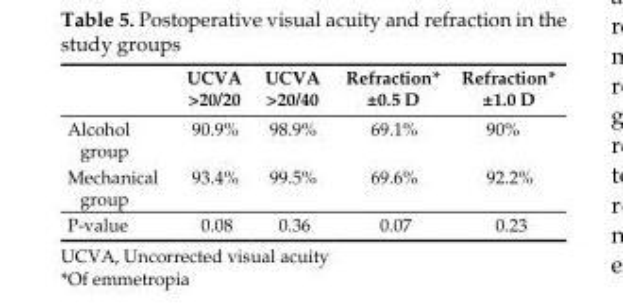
<table><thead><tr><td></td><td>uCvA &gt;20/20</td><td>uCvA &gt;20/40</td><td>Refraction* ±0.5 D</td><td>Refraction* ±1.0 D</td></tr></thead><tbody><tr><td>Alcohol group</td><td>90.9%</td><td>98.9%</td><td>69.1%</td><td>90%</td></tr><tr><td>Mechanical group</td><td>93.4%</td><td>99.5%</td><td>69.6%</td><td>92.2%</td></tr><tr><td>P-value</td><td>0.08</td><td>0.36</td><td>0.07</td><td>0.23</td></tr></tbody></table>